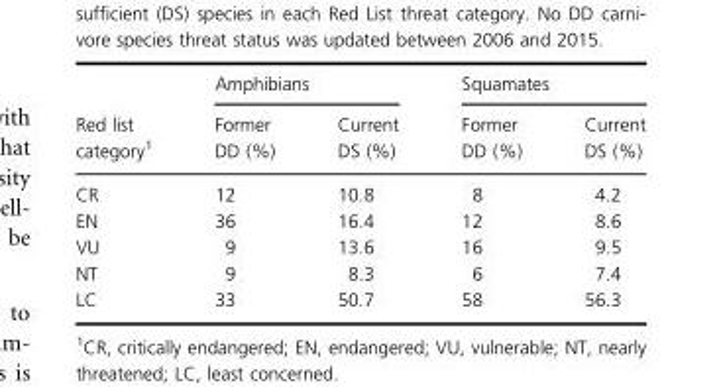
<table><thead><tr><td rowspan="2">Red list category1</td><td colspan="2">Amphibians</td><td colspan="2">Squamates</td></tr><tr><td>Former DD (%)</td><td>Current DS (%)</td><td>Former DD (%)</td><td>Current DS (%)</td></tr></thead><tbody><tr><td>CR</td><td>12</td><td>10.8</td><td>8</td><td>4.2</td></tr><tr><td>EN</td><td>36</td><td>16.4</td><td>12</td><td>8.6</td></tr><tr><td>VU</td><td>9</td><td>13.6</td><td>16</td><td>9.5</td></tr><tr><td>NT</td><td>9</td><td>8.3</td><td>6</td><td>7.4</td></tr><tr><td>LC</td><td>33</td><td>50.7</td><td>58</td><td>56.3</td></tr></tbody></table>